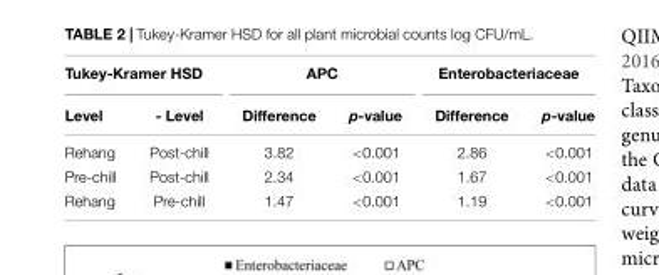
<table><thead><tr><td colspan="2">Tukey-Kramer HSD</td><td colspan="2">APC</td><td colspan="2">Enterobacteriaceae</td></tr><tr><td>Level</td><td>- Level</td><td>Difference</td><td>p-value</td><td>Difference</td><td>p-value</td></tr></thead><tbody><tr><td>Rehang</td><td>Post-chill</td><td>3.82</td><td>&lt;0.001</td><td>2.86</td><td>&lt;0.001</td></tr><tr><td>Pre-chill</td><td>Post-chill</td><td>2.34</td><td>&lt;0.001</td><td>1.67</td><td>&lt;0.001</td></tr><tr><td>Rehang</td><td>Pre-chill</td><td>1.47</td><td>&lt;0.001</td><td>1.19</td><td>&lt;0.001</td></tr></tbody></table>